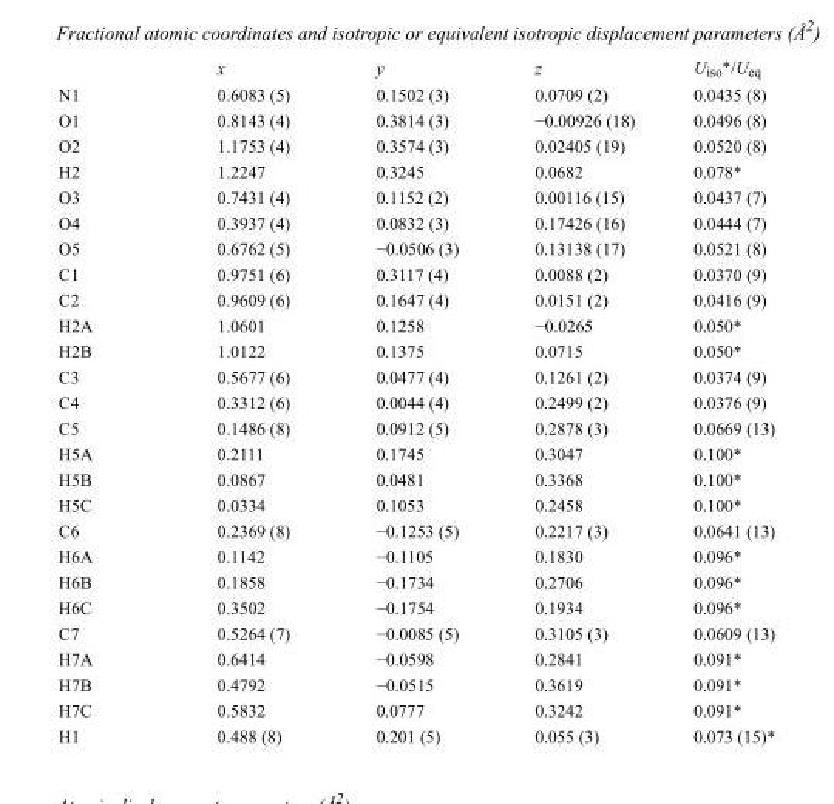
<table><thead><tr><td></td><td>x</td><td>y</td><td>z</td><td>U<sub>iso</sub>*/U<sub>eq</sub></td></tr></thead><tbody><tr><td>N1</td><td>0.6083 (5)</td><td>0.1502 (3)</td><td>0.0709 (2)</td><td>0.0435 (8)</td></tr><tr><td>O1</td><td>0.8143 (4)</td><td>0.3814 (3)</td><td>−0.00926 (18)</td><td>0.0496 (8)</td></tr><tr><td>O2</td><td>1.1753 (4)</td><td>0.3574 (3)</td><td>0.02405 (19)</td><td>0.0520 (8)</td></tr><tr><td>H2</td><td>1.2247</td><td>0.3245</td><td>0.0682</td><td>0.078*</td></tr><tr><td>O3</td><td>0.7431 (4)</td><td>0.1152 (2)</td><td>0.00116 (15)</td><td>0.0437 (7)</td></tr><tr><td>O4</td><td>0.3937 (4)</td><td>0.0832 (3)</td><td>0.17426 (16)</td><td>0.0444 (7)</td></tr><tr><td>O5</td><td>0.6762 (5)</td><td>−0.0506 (3)</td><td>0.13138 (17)</td><td>0.0521 (8)</td></tr><tr><td>C1</td><td>0.9751 (6)</td><td>0.3117 (4)</td><td>0.0088 (2)</td><td>0.0370 (9)</td></tr><tr><td>C2</td><td>0.9609 (6)</td><td>0.1647 (4)</td><td>0.0151 (2)</td><td>0.0416 (9)</td></tr><tr><td>H2A</td><td>1.0601</td><td>0.1258</td><td>−0.0265</td><td>0.050*</td></tr><tr><td>H2B</td><td>1.0122</td><td>0.1375</td><td>0.0715</td><td>0.050*</td></tr><tr><td>C3</td><td>0.5677 (6)</td><td>0.0477 (4)</td><td>0.1261 (2)</td><td>0.0374 (9)</td></tr><tr><td>C4</td><td>0.3312 (6)</td><td>0.0044 (4)</td><td>0.2499 (2)</td><td>0.0376 (9)</td></tr><tr><td>C5</td><td>0.1486 (8)</td><td>0.0912 (5)</td><td>0.2878 (3)</td><td>0.0669 (13)</td></tr><tr><td>H5A</td><td>0.2111</td><td>0.1745</td><td>0.3047</td><td>0.100*</td></tr><tr><td>H5B</td><td>0.0867</td><td>0.0481</td><td>0.3368</td><td>0.100*</td></tr><tr><td>H5C</td><td>0.0334</td><td>0.1053</td><td>0.2458</td><td>0.100*</td></tr><tr><td>C6</td><td>0.2369 (8)</td><td>−0.1253 (5)</td><td>0.2217 (3)</td><td>0.0641 (13)</td></tr><tr><td>H6A</td><td>0.1142</td><td>−0.1105</td><td>0.1830</td><td>0.096*</td></tr><tr><td>H6B</td><td>0.1858</td><td>−0.1734</td><td>0.2706</td><td>0.096*</td></tr><tr><td>H6C</td><td>0.3502</td><td>−0.1754</td><td>0.1934</td><td>0.096*</td></tr><tr><td>C7</td><td>0.5264 (7)</td><td>−0.0085 (5)</td><td>0.3105 (3)</td><td>0.0609 (13)</td></tr><tr><td>H7A</td><td>0.6414</td><td>−0.0598</td><td>0.2841</td><td>0.091*</td></tr><tr><td>H7B</td><td>0.4792</td><td>−0.0515</td><td>0.3619</td><td>0.091*</td></tr><tr><td>H7C</td><td>0.5832</td><td>0.0777</td><td>0.3242</td><td>0.091*</td></tr><tr><td>H1</td><td>0.488 (8)</td><td>0.201 (5)</td><td>0.055 (3)</td><td>0.073 (15)*</td></tr></tbody></table>